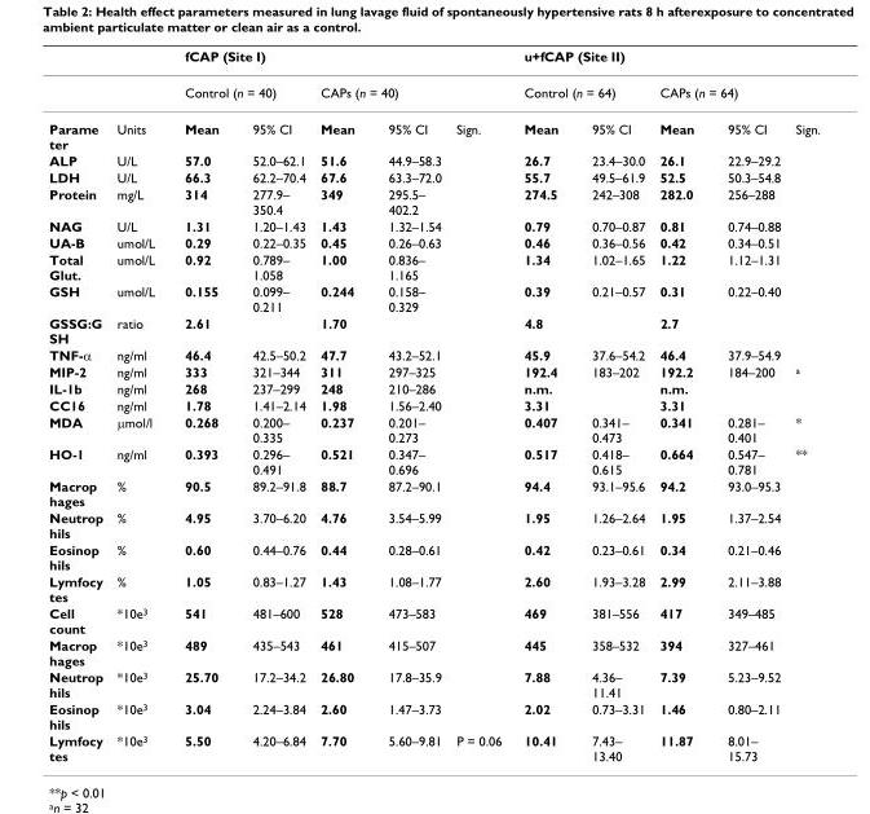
<table><thead><tr><td rowspan="3">Parame ter</td><td rowspan="3">Units</td><td colspan="5">fCAP (Site I)</td><td colspan="5">u+fCAP (Site II)</td></tr><tr><td colspan="2">Control (n = 40)</td><td colspan="3">CAPs (n = 40)</td><td colspan="2">Control (n = 64)</td><td colspan="3">CAPs (n = 64)</td></tr><tr><td>Mean</td><td>95% CI</td><td>Mean</td><td>95% CI</td><td>Sign.</td><td>Mean</td><td>95% CI</td><td>Mean</td><td>95% CI</td><td>Sign.</td></tr></thead><tbody><tr><td>ALP</td><td>U/L</td><td>57.0</td><td>52.0–62.1</td><td>51.6</td><td>44.9–58.3</td><td></td><td>26.7</td><td>23.4–30.0</td><td>26.1</td><td>22.9–29.2</td><td></td></tr><tr><td>LDH</td><td>U/L</td><td>66.3</td><td>62.2–70.4</td><td>67.6</td><td>63.3–72.0</td><td></td><td>55.7</td><td>49.5–61.9</td><td>52.5</td><td>50.3–54.8</td><td></td></tr><tr><td>Protein</td><td>mg/L</td><td>314</td><td>277.9– 350.4</td><td>349</td><td>295.5– 402.2</td><td></td><td>274.5</td><td>242–308</td><td>282.0</td><td>256–288</td><td></td></tr><tr><td>NAG</td><td>U/L</td><td>1.31</td><td>1.20–1.43</td><td>1.43</td><td>1.32–1.54</td><td></td><td>0.79</td><td>0.70–0.87</td><td>0.81</td><td>0.74–0.88</td><td></td></tr><tr><td>UA-B</td><td>umol/L</td><td>0.29</td><td>0.22–0.35</td><td>0.45</td><td>0.26–0.63</td><td></td><td>0.46</td><td>0.36–0.56</td><td>0.42</td><td>0.34–0.51</td><td></td></tr><tr><td>Total Glut.</td><td>umol/L</td><td>0.92</td><td>0.789– 1.058</td><td>1.00</td><td>0.836– 1.165</td><td></td><td>1.34</td><td>1.02–1.65</td><td>1.22</td><td>1.12–1.31</td><td></td></tr><tr><td>GSH</td><td>umol/L</td><td>0.155</td><td>0.099– 0.211</td><td>0.244</td><td>0.158– 0.329</td><td></td><td>0.39</td><td>0.21–0.57</td><td>0.31</td><td>0.22–0.40</td><td></td></tr><tr><td>GSSG:G SH</td><td>ratio</td><td>2.61</td><td></td><td>1.70</td><td></td><td></td><td>4.8</td><td></td><td>2.7</td><td></td><td></td></tr><tr><td>TNF-α</td><td>ng/ml</td><td>46.4</td><td>42.5–50.2</td><td>47.7</td><td>43.2–52.1</td><td></td><td>45.9</td><td>37.6–54.2</td><td>46.4</td><td>37.9–54.9</td><td></td></tr><tr><td>MIP-2</td><td>ng/ml</td><td>333</td><td>321–344</td><td>311</td><td>297–325</td><td></td><td>192.4</td><td>183–202</td><td>192.2</td><td>184–200</td><td><sup>a</sup></td></tr><tr><td>IL-1b</td><td>ng/ml</td><td>268</td><td>237–299</td><td>248</td><td>210–286</td><td></td><td>n.m.</td><td></td><td>n.m.</td><td></td><td></td></tr><tr><td>CC16</td><td>ng/ml</td><td>1.78</td><td>1.41–2.14</td><td>1.98</td><td>1.56–2.40</td><td></td><td>3.31</td><td></td><td>3.31</td><td></td><td></td></tr><tr><td>MDA</td><td>µmol/l</td><td>0.268</td><td>0.200– 0.335</td><td>0.237</td><td>0.201– 0.273</td><td></td><td>0.407</td><td>0.341– 0.473</td><td>0.341</td><td>0.281– 0.401</td><td>*</td></tr><tr><td>HO-1</td><td>ng/ml</td><td>0.393</td><td>0.296– 0.491</td><td>0.521</td><td>0.347– 0.696</td><td></td><td>0.517</td><td>0.418– 0.615</td><td>0.664</td><td>0.547– 0.781</td><td>**</td></tr><tr><td>Macrop hages</td><td>%</td><td>90.5</td><td>89.2–91.8</td><td>88.7</td><td>87.2–90.1</td><td></td><td>94.4</td><td>93.1–95.6</td><td>94.2</td><td>93.0–95.3</td><td></td></tr><tr><td>Neutrop hils</td><td>%</td><td>4.95</td><td>3.70–6.20</td><td>4.76</td><td>3.54–5.99</td><td></td><td>1.95</td><td>1.26–2.64</td><td>1.95</td><td>1.37–2.54</td><td></td></tr><tr><td>Eosinop hils</td><td>%</td><td>0.60</td><td>0.44–0.76</td><td>0.44</td><td>0.28–0.61</td><td></td><td>0.42</td><td>0.23–0.61</td><td>0.34</td><td>0.21–0.46</td><td></td></tr><tr><td>Lymfocy tes</td><td>%</td><td>1.05</td><td>0.83–1.27</td><td>1.43</td><td>1.08–1.77</td><td></td><td>2.60</td><td>1.93–3.28</td><td>2.99</td><td>2.11–3.88</td><td></td></tr><tr><td>Cell count</td><td>*10e<sup>3</sup></td><td>541</td><td>481–600</td><td>528</td><td>473–583</td><td></td><td>469</td><td>381–556</td><td>417</td><td>349–485</td><td></td></tr><tr><td>Macrop hages</td><td>*10e<sup>3</sup></td><td>489</td><td>435–543</td><td>461</td><td>415–507</td><td></td><td>445</td><td>358–532</td><td>394</td><td>327–461</td><td></td></tr><tr><td>Neutrop hils</td><td>*10e<sup>3</sup></td><td>25.70</td><td>17.2–34.2</td><td>26.80</td><td>17.8–35.9</td><td></td><td>7.88</td><td>4.36– 11.41</td><td>7.39</td><td>5.23–9.52</td><td></td></tr><tr><td>Eosinop hils</td><td>*10e<sup>3</sup></td><td>3.04</td><td>2.24–3.84</td><td>2.60</td><td>1.47–3.73</td><td></td><td>2.02</td><td>0.73–3.31</td><td>1.46</td><td>0.80–2.11</td><td></td></tr><tr><td>Lymfocy tes</td><td>*10e<sup>3</sup></td><td>5.50</td><td>4.20–6.84</td><td>7.70</td><td>5.60–9.81</td><td>P = 0.06</td><td>10.41</td><td>7.43– 13.40</td><td>11.87</td><td>8.01– 15.73</td><td></td></tr></tbody></table>